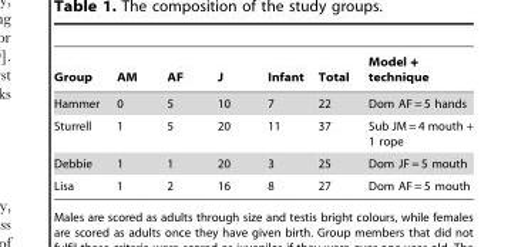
<table><thead><tr><td>Group</td><td>AM</td><td>AF</td><td>J</td><td>Infant</td><td>Total</td><td>Model + technique</td></tr></thead><tbody><tr><td>Hammer</td><td>0</td><td>5</td><td>10</td><td>7</td><td>22</td><td>Dom AF = 5 hands</td></tr><tr><td>Sturrell</td><td>1</td><td>5</td><td>20</td><td>11</td><td>37</td><td>Sub JM = 4 mouth + 1 rope</td></tr><tr><td>Debbie</td><td>1</td><td>1</td><td>20</td><td>3</td><td>25</td><td>Dom JF = 5 mouth</td></tr><tr><td>Lisa</td><td>1</td><td>2</td><td>16</td><td>8</td><td>27</td><td>Dom AF = 5 mouth</td></tr></tbody></table>